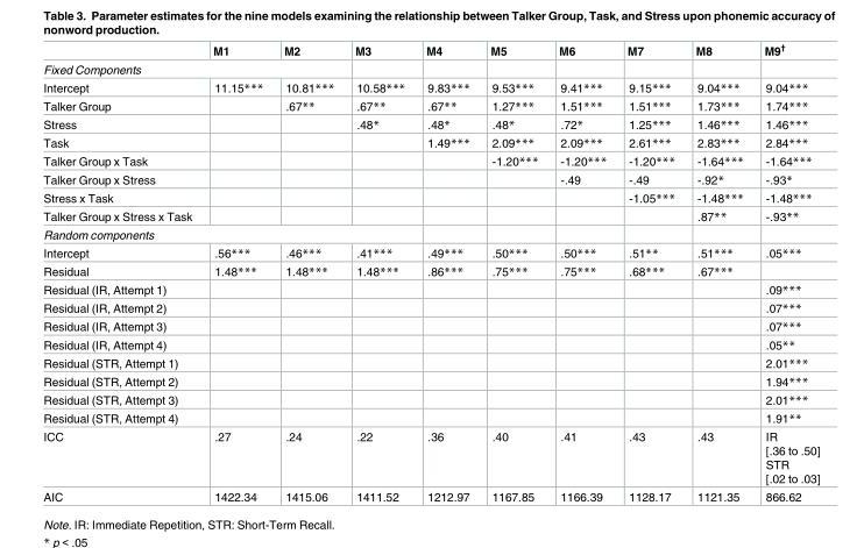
<table><thead><tr><td></td><td>M1</td><td>M2</td><td>M3</td><td>M4</td><td>M5</td><td>M6</td><td>M7</td><td>M8</td><td>M9<sup>†</sup></td></tr></thead><tbody><tr><td colspan="10">Fixed Components</td></tr><tr><td>Intercept</td><td>11.15***</td><td>10.81***</td><td>10.58***</td><td>9.83***</td><td>9.53***</td><td>9.41***</td><td>9.15***</td><td>9.04***</td><td>9.04***</td></tr><tr><td>Talker Group</td><td></td><td>.67**</td><td>.67**</td><td>.67**</td><td>1.27***</td><td>1.51***</td><td>1.51***</td><td>1.73***</td><td>1.74***</td></tr><tr><td>Stress</td><td></td><td></td><td>.48*</td><td>.48*</td><td>.48*</td><td>.72*</td><td>1.25***</td><td>1.46***</td><td>1.46***</td></tr><tr><td>Task</td><td></td><td></td><td></td><td>1.49***</td><td>2.09***</td><td>2.09***</td><td>2.61***</td><td>2.83***</td><td>2.84***</td></tr><tr><td>Talker Group x Task</td><td></td><td></td><td></td><td></td><td>-1.20***</td><td>-1.20***</td><td>-1.20***</td><td>-1.64***</td><td>-1.64***</td></tr><tr><td>Talker Group x Stress</td><td></td><td></td><td></td><td></td><td></td><td>-.49</td><td>-.49</td><td>-.92*</td><td>-.93*</td></tr><tr><td>Stress x Task</td><td></td><td></td><td></td><td></td><td></td><td></td><td>-1.05***</td><td>-1.48***</td><td>-1.48***</td></tr><tr><td>Talker Group x Stress x Task</td><td></td><td></td><td></td><td></td><td></td><td></td><td></td><td>.87**</td><td>-.93**</td></tr><tr><td colspan="10">Random components</td></tr><tr><td>Intercept</td><td>.56***</td><td>.46***</td><td>.41***</td><td>.49***</td><td>.50***</td><td>.50***</td><td>.51**</td><td>.51***</td><td>.05***</td></tr><tr><td>Residual</td><td>1.48***</td><td>1.48***</td><td>1.48***</td><td>.86***</td><td>.75***</td><td>.75***</td><td>.68***</td><td>.67***</td><td></td></tr><tr><td>Residual (IR, Attempt 1)</td><td></td><td></td><td></td><td></td><td></td><td></td><td></td><td></td><td>.09***</td></tr><tr><td>Residual (IR, Attempt 2)</td><td></td><td></td><td></td><td></td><td></td><td></td><td></td><td></td><td>.07***</td></tr><tr><td>Residual (IR, Attempt 3)</td><td></td><td></td><td></td><td></td><td></td><td></td><td></td><td></td><td>.07***</td></tr><tr><td>Residual (IR, Attempt 4)</td><td></td><td></td><td></td><td></td><td></td><td></td><td></td><td></td><td>.05**</td></tr><tr><td>Residual (STR, Attempt 1)</td><td></td><td></td><td></td><td></td><td></td><td></td><td></td><td></td><td>2.01***</td></tr><tr><td>Residual (STR, Attempt 2)</td><td></td><td></td><td></td><td></td><td></td><td></td><td></td><td></td><td>1.94***</td></tr><tr><td>Residual (STR, Attempt 3)</td><td></td><td></td><td></td><td></td><td></td><td></td><td></td><td></td><td>2.01***</td></tr><tr><td>Residual (STR, Attempt 4)</td><td></td><td></td><td></td><td></td><td></td><td></td><td></td><td></td><td>1.91**</td></tr><tr><td>ICC</td><td>.27</td><td>.24</td><td>.22</td><td>.36</td><td>.40</td><td>.41</td><td>.43</td><td>.43</td><td>IR [.36 to .50] STR [.02 to .03]</td></tr><tr><td>AIC</td><td>1422.34</td><td>1415.06</td><td>1411.52</td><td>1212.97</td><td>1167.85</td><td>1166.39</td><td>1128.17</td><td>1121.35</td><td>866.62</td></tr></tbody></table>